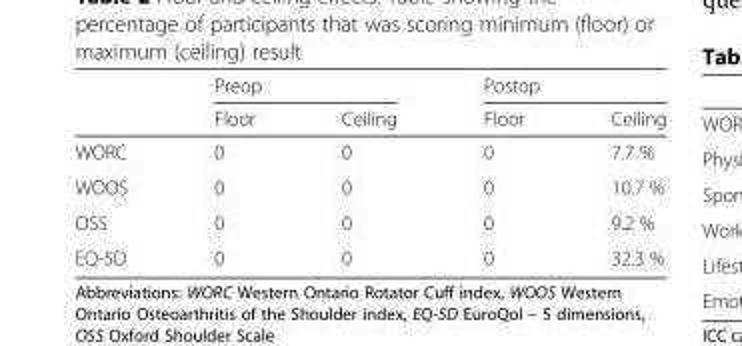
<table><thead><tr><td rowspan="2"></td><td colspan="2">Preop</td><td colspan="2">Postop</td></tr><tr><td>Floor</td><td>Ceiling</td><td>Floor</td><td>Ceiling</td></tr></thead><tbody><tr><td>WORC</td><td>0</td><td>0</td><td>0</td><td>7.7 %</td></tr><tr><td>WOOS</td><td>0</td><td>0</td><td>0</td><td>10.7 %</td></tr><tr><td>OSS</td><td>0</td><td>0</td><td>0</td><td>9.2 %</td></tr><tr><td>EQ-5D</td><td>0</td><td>0</td><td>0</td><td>32.3 %</td></tr></tbody></table>